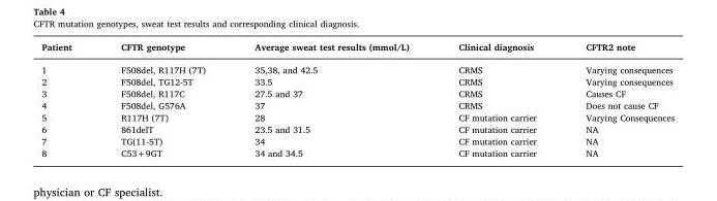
<table><thead><tr><td>Patient</td><td>CFTR genotype</td><td>Average sweat test results (mmol/L)</td><td>Clinical diagnosis</td><td>CFTR2 note</td></tr></thead><tbody><tr><td>1</td><td>F508del, R117H (7T)</td><td>35,38, and 42.5</td><td>CRMS</td><td>Varying consequences</td></tr><tr><td>2</td><td>F508del, TG12-5T</td><td>33.5</td><td>CRMS</td><td>Varying consequences</td></tr><tr><td>3</td><td>F508del, R117C</td><td>27.5 and 37</td><td>CRMS</td><td>Causes CF</td></tr><tr><td>4</td><td>F508del, G576A</td><td>37</td><td>CRMS</td><td>Does not cause CF</td></tr><tr><td>5</td><td>R117H (7T)</td><td>28</td><td>CF mutation carrier</td><td>Varying Consequences</td></tr><tr><td>6</td><td>861delT</td><td>23.5 and 31.5</td><td>CF mutation carrier</td><td>NA</td></tr><tr><td>7</td><td>TG(11-5T)</td><td>34</td><td>CF mutation carrier</td><td>NA</td></tr><tr><td>8</td><td>C53+9GT</td><td>34 and 34.5</td><td>CF mutation carrier</td><td>NA</td></tr></tbody></table>